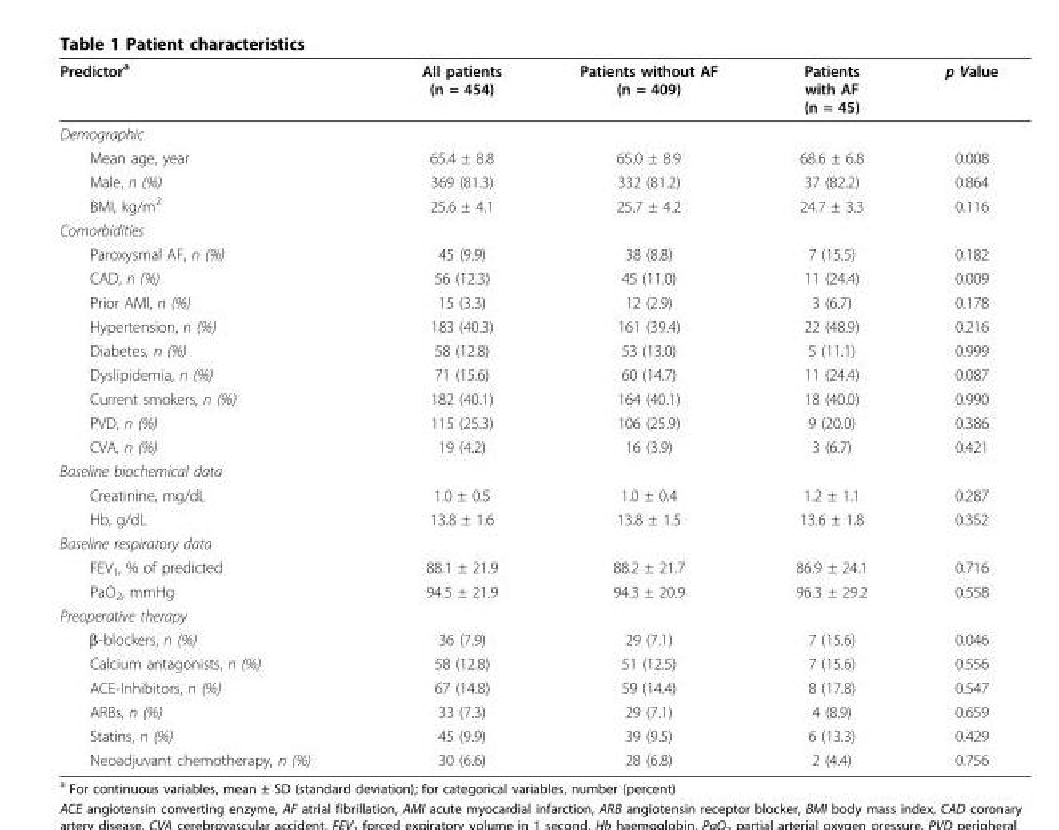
<table><thead><tr><td>Predictor<sup>a</sup></td><td>All patients (n = 454)</td><td>Patients without AF (n = 409)</td><td>Patients with AF (n = 45)</td><td>p Value</td></tr></thead><tbody><tr><td colspan="5">Demographic</td></tr><tr><td>Mean age, year</td><td>65.4 ± 8.8</td><td>65.0 ± 8.9</td><td>68.6 ± 6.8</td><td>0.008</td></tr><tr><td>Male, n (%)</td><td>369 (81.3)</td><td>332 (81.2)</td><td>37 (82.2)</td><td>0.864</td></tr><tr><td>BMI, kg/m<sup>2</sup></td><td>25.6 ± 4.1</td><td>25.7 ± 4.2</td><td>24.7 ± 3.3</td><td>0.116</td></tr><tr><td colspan="5">Comorbidities</td></tr><tr><td>Paroxysmal AF, n (%)</td><td>45 (9.9)</td><td>38 (8.8)</td><td>7 (15.5)</td><td>0.182</td></tr><tr><td>CAD, n (%)</td><td>56 (12.3)</td><td>45 (11.0)</td><td>11 (24.4)</td><td>0.009</td></tr><tr><td>Prior AMI, n (%)</td><td>15 (3.3)</td><td>12 (2.9)</td><td>3 (6.7)</td><td>0.178</td></tr><tr><td>Hypertension, n (%)</td><td>183 (40.3)</td><td>161 (39.4)</td><td>22 (48.9)</td><td>0.216</td></tr><tr><td>Diabetes, n (%)</td><td>58 (12.8)</td><td>53 (13.0)</td><td>5 (11.1)</td><td>0.999</td></tr><tr><td>Dyslipidemia, n (%)</td><td>71 (15.6)</td><td>60 (14.7)</td><td>11 (24.4)</td><td>0.087</td></tr><tr><td>Current smokers, n (%)</td><td>182 (40.1)</td><td>164 (40.1)</td><td>18 (40.0)</td><td>0.990</td></tr><tr><td>PVD, n (%)</td><td>115 (25.3)</td><td>106 (25.9)</td><td>9 (20.0)</td><td>0.386</td></tr><tr><td>CVA, n (%)</td><td>19 (4.2)</td><td>16 (3.9)</td><td>3 (6.7)</td><td>0.421</td></tr><tr><td colspan="5">Baseline biochemical data</td></tr><tr><td>Creatinine, mg/dL</td><td>1.0 ± 0.5</td><td>1.0 ± 0.4</td><td>1.2 ± 1.1</td><td>0.287</td></tr><tr><td>Hb, g/dL</td><td>13.8 ± 1.6</td><td>13.8 ± 1.5</td><td>13.6 ± 1.8</td><td>0.352</td></tr><tr><td colspan="5">Baseline respiratory data</td></tr><tr><td>FEV<sub>1</sub>, % of predicted</td><td>88.1 ± 21.9</td><td>88.2 ± 21.7</td><td>86.9 ± 24.1</td><td>0.716</td></tr><tr><td>PaO<sub>2</sub>, mmHg</td><td>94.5 ± 21.9</td><td>94.3 ± 20.9</td><td>96.3 ± 29.2</td><td>0.558</td></tr><tr><td colspan="5">Preoperative therapy</td></tr><tr><td>β-blockers, n (%)</td><td>36 (7.9)</td><td>29 (7.1)</td><td>7 (15.6)</td><td>0.046</td></tr><tr><td>Calcium antagonists, n (%)</td><td>58 (12.8)</td><td>51 (12.5)</td><td>7 (15.6)</td><td>0.556</td></tr><tr><td>ACE-Inhibitors, n (%)</td><td>67 (14.8)</td><td>59 (14.4)</td><td>8 (17.8)</td><td>0.547</td></tr><tr><td>ARBs, n (%)</td><td>33 (7.3)</td><td>29 (7.1)</td><td>4 (8.9)</td><td>0.659</td></tr><tr><td>Statins, n (%)</td><td>45 (9.9)</td><td>39 (9.5)</td><td>6 (13.3)</td><td>0.429</td></tr><tr><td>Neoadjuvant chemotherapy, n (%)</td><td>30 (6.6)</td><td>28 (6.8)</td><td>2 (4.4)</td><td>0.756</td></tr></tbody></table>